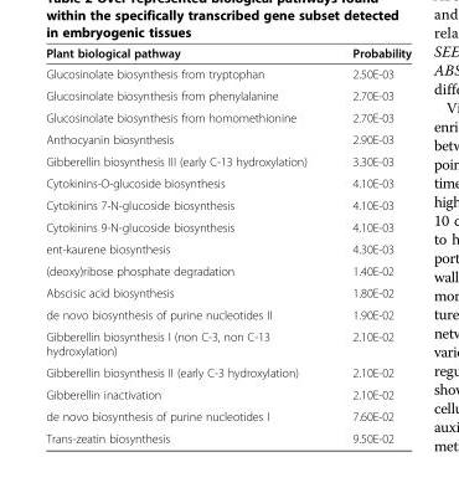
<table><thead><tr><td>Plant biological pathway</td><td>Probability</td></tr></thead><tbody><tr><td>Glucosinolate biosynthesis from tryptophan</td><td>2.50E-03</td></tr><tr><td>Glucosinolate biosynthesis from phenylalanine</td><td>2.70E-03</td></tr><tr><td>Glucosinolate biosynthesis from homomethionine</td><td>2.70E-03</td></tr><tr><td>Anthocyanin biosynthesis</td><td>2.90E-03</td></tr><tr><td>Gibberellin biosynthesis III (early C-13 hydroxylation)</td><td>3.30E-03</td></tr><tr><td>Cytokinins-O-glucoside biosynthesis</td><td>4.10E-03</td></tr><tr><td>Cytokinins 7-N-glucoside biosynthesis</td><td>4.10E-03</td></tr><tr><td>Cytokinins 9-N-glucoside biosynthesis</td><td>4.10E-03</td></tr><tr><td>ent-kaurene biosynthesis</td><td>4.30E-03</td></tr><tr><td>(deoxy)ribose phosphate degradation</td><td>1.40E-02</td></tr><tr><td>Abscisic acid biosynthesis</td><td>1.80E-02</td></tr><tr><td>de novo biosynthesis of purine nucleotides II</td><td>1.90E-02</td></tr><tr><td>Gibberellin biosynthesis I (non C-3, non C-13 hydroxylation)</td><td>2.10E-02</td></tr><tr><td>Gibberellin biosynthesis II (early C-3 hydroxylation)</td><td>2.10E-02</td></tr><tr><td>Gibberellin inactivation</td><td>2.10E-02</td></tr><tr><td>de novo biosynthesis of purine nucleotides I</td><td>7.60E-02</td></tr><tr><td>Trans-zeatin biosynthesis</td><td>9.50E-02</td></tr></tbody></table>